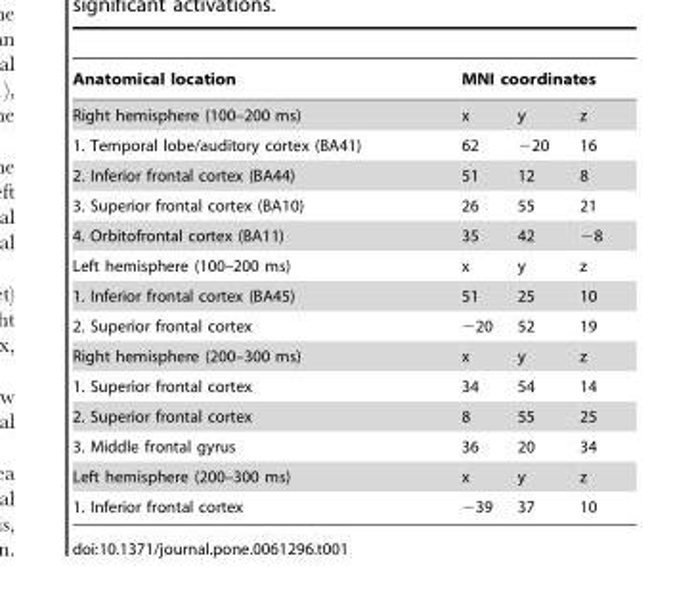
<table><thead><tr><td rowspan="2">Anatomical location Right hemisphere (100–200 ms)</td><td colspan="3">MNI coordinates</td></tr><tr><td>x</td><td>y</td><td>z</td></tr></thead><tbody><tr><td>1. Temporal lobe/auditory cortex (BA41)</td><td>62</td><td>−20</td><td>16</td></tr><tr><td>2. Inferior frontal cortex (BA44)</td><td>51</td><td>12</td><td>8</td></tr><tr><td>3. Superior frontal cortex (BA10)</td><td>26</td><td>55</td><td>21</td></tr><tr><td>4. Orbitofrontal cortex (BA11)</td><td>35</td><td>42</td><td>−8</td></tr><tr><td>Left hemisphere (100–200 ms)</td><td>x</td><td>y</td><td>z</td></tr><tr><td>1. Inferior frontal cortex (BA45)</td><td>51</td><td>25</td><td>10</td></tr><tr><td>2. Superior frontal cortex</td><td>−20</td><td>52</td><td>19</td></tr><tr><td>Right hemisphere (200–300 ms)</td><td>x</td><td>y</td><td>z</td></tr><tr><td>1. Superior frontal cortex</td><td>34</td><td>54</td><td>14</td></tr><tr><td>2. Superior frontal cortex</td><td>8</td><td>55</td><td>25</td></tr><tr><td>3. Middle frontal gyrus</td><td>36</td><td>20</td><td>34</td></tr><tr><td>Left hemisphere (200–300 ms)</td><td>x</td><td>y</td><td>z</td></tr><tr><td>1. Inferior frontal cortex</td><td>−39</td><td>37</td><td>10</td></tr></tbody></table>